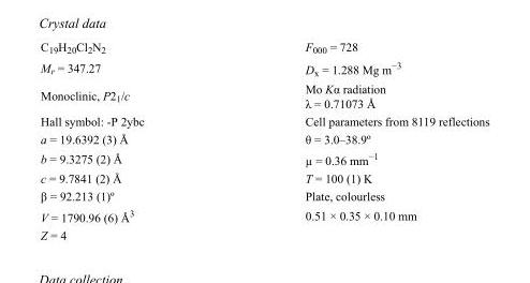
<table><tbody><tr><td>C<sub>19</sub>H<sub>20</sub>Cl<sub>2</sub>N<sub>2</sub></td><td>F<sub>000</sub> = 728</td></tr><tr><td>M<sub>r</sub> = 347.27</td><td>D<sub>x</sub> = 1.288 Mg m<sup>−3</sup></td></tr><tr><td>Monoclinic, P2<sub>1</sub>/c</td><td>Mo Kα radiation λ = 0.71073 Å</td></tr><tr><td>Hall symbol: -P 2ybc</td><td>Cell parameters from 8119 reflections</td></tr><tr><td>a = 19.6392 (3) Å</td><td>θ = 3.0–38.9º</td></tr><tr><td>b = 9.3275 (2) Å</td><td>µ = 0.36 mm<sup>−1</sup></td></tr><tr><td>c = 9.7841 (2) Å</td><td>T = 100 (1) K</td></tr><tr><td>β = 92.213 (1)º</td><td>Plate, colourless</td></tr><tr><td>V = 1790.96 (6) Å<sup>3</sup></td><td>0.51 × 0.35 × 0.10 mm</td></tr><tr><td>Z = 4</td><td></td></tr></tbody></table>